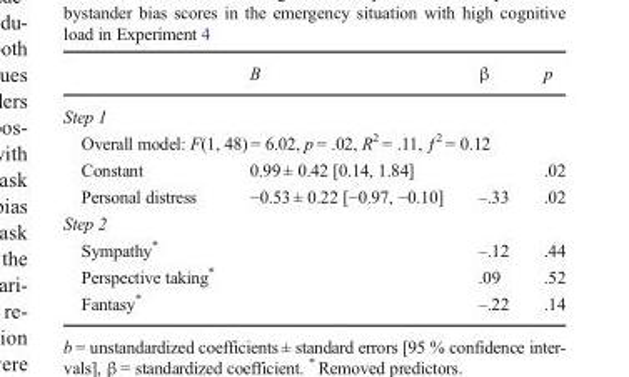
<table><thead><tr><td></td><td>B</td><td>β</td><td>p</td></tr></thead><tbody><tr><td colspan="4">Step 1</td></tr><tr><td colspan="4">Overall model: F(1, 48) = 6.02, p = .02, R<sup>2</sup> = .11, ƒ<sup>2</sup> = 0.12</td></tr><tr><td>Constant</td><td>0.99 ± 0.42 [0.14, 1.84]</td><td></td><td>.02</td></tr><tr><td>Personal distress</td><td>−0.53 ± 0.22 [−0.97, −0.10]</td><td>–.33</td><td>.02</td></tr><tr><td colspan="4">Step 2</td></tr><tr><td>Sympathy*</td><td></td><td>–.12</td><td>.44</td></tr><tr><td>Perspective taking*</td><td></td><td>.09</td><td>.52</td></tr><tr><td>Fantasy*</td><td></td><td>–.22</td><td>.14</td></tr></tbody></table>